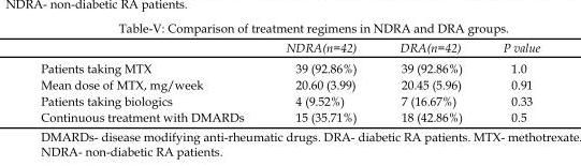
<table><thead><tr><td></td><td>NDRA(n=42)</td><td>DRA(n=42)</td><td>P value</td></tr></thead><tbody><tr><td>Patients taking MTX</td><td>39 (92.86%)</td><td>39 (92.86%)</td><td>1.0</td></tr><tr><td>Mean dose of MTX, mg/week</td><td>20.60 (3.99)</td><td>20.45 (5.96)</td><td>0.91</td></tr><tr><td>Patients taking biologics</td><td>4 (9.52%)</td><td>7 (16.67%)</td><td>0.33</td></tr><tr><td>Continuous treatment with DMARDs</td><td>15 (35.71%)</td><td>18 (42.86%)</td><td>0.5</td></tr></tbody></table>